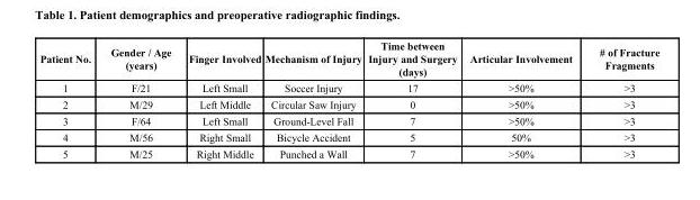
<table><thead><tr><td>Patient No.</td><td>Gender / Age (years)</td><td>Finger Involved</td><td>Mechanism of Injury</td><td>Time between Injury and Surgery (days)</td><td>Articular Involvement</td><td># of Fracture Fragments</td></tr></thead><tbody><tr><td>1</td><td>F/21</td><td>Left Small</td><td>Soccer Injury</td><td>17</td><td>&gt;50%</td><td>&gt;3</td></tr><tr><td>2</td><td>M/29</td><td>Left Middle</td><td>Circular Saw Injury</td><td>0</td><td>&gt;50%</td><td>&gt;3</td></tr><tr><td>3</td><td>F/64</td><td>Left Small</td><td>Ground-Level Fall</td><td>7</td><td>&gt;50%</td><td>&gt;3</td></tr><tr><td>4</td><td>M/56</td><td>Right Small</td><td>Bicycle Accident</td><td>5</td><td>50%</td><td>&gt;3</td></tr><tr><td>5</td><td>M/25</td><td>Right Middle</td><td>Punched a Wall</td><td>7</td><td>&gt;50%</td><td>&gt;3</td></tr></tbody></table>